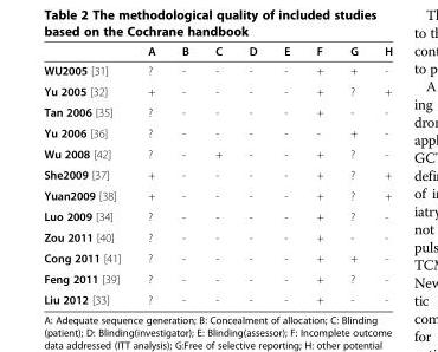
<table><thead><tr><td></td><td>A</td><td>B</td><td>C</td><td>D</td><td>E</td><td>F</td><td>G</td><td>H</td></tr></thead><tbody><tr><td>WU2005 [31]</td><td>?</td><td>-</td><td>-</td><td>-</td><td>-</td><td>+</td><td>+</td><td>-</td></tr><tr><td>Yu 2005 [32]</td><td>+</td><td>-</td><td>-</td><td>-</td><td>-</td><td>+</td><td>?</td><td>+</td></tr><tr><td>Tan 2006 [35]</td><td>?</td><td>-</td><td>-</td><td>-</td><td>-</td><td>+</td><td>-</td><td>-</td></tr><tr><td>Yu 2006 [36]</td><td>?</td><td>-</td><td>-</td><td>-</td><td>-</td><td>-</td><td>+</td><td>-</td></tr><tr><td>Wu 2008 [42]</td><td>?</td><td>-</td><td>+</td><td>-</td><td>-</td><td>+</td><td>?</td><td>-</td></tr><tr><td>She2009 [37]</td><td>+</td><td>-</td><td>-</td><td>-</td><td>-</td><td>+</td><td>?</td><td>+</td></tr><tr><td>Yuan2009 [38]</td><td>+</td><td>-</td><td>-</td><td>-</td><td>-</td><td>+</td><td>?</td><td>+</td></tr><tr><td>Luo 2009 [34]</td><td>?</td><td>-</td><td>-</td><td>-</td><td>-</td><td>+</td><td>?</td><td>-</td></tr><tr><td>Zou 2011 [40]</td><td>?</td><td>-</td><td>-</td><td>-</td><td>-</td><td>+</td><td>-</td><td>-</td></tr><tr><td>Cong 2011 [41]</td><td>?</td><td>-</td><td>-</td><td>-</td><td>-</td><td>+</td><td>+</td><td>-</td></tr><tr><td>Feng 2011 [39]</td><td>?</td><td>-</td><td>-</td><td>-</td><td>-</td><td>+</td><td>?</td><td>-</td></tr><tr><td>Liu 2012 [33]</td><td>?</td><td>-</td><td>-</td><td>-</td><td>-</td><td>+</td><td>-</td><td>-</td></tr></tbody></table>